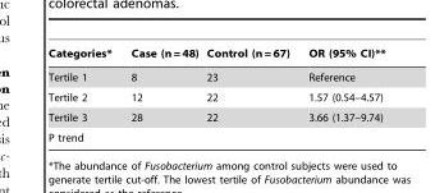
<table><thead><tr><td>Categories*</td><td>Case (n = 48)</td><td>Control (n = 67)</td><td>OR (95% CI)**</td></tr></thead><tbody><tr><td>Tertile 1</td><td>8</td><td>23</td><td>Reference</td></tr><tr><td>Tertile 2</td><td>12</td><td>22</td><td>1.57 (0.54–4.57)</td></tr><tr><td>Tertile 3</td><td>28</td><td>22</td><td>3.66 (1.37–9.74)</td></tr><tr><td>P trend</td><td></td><td></td><td></td></tr></tbody></table>